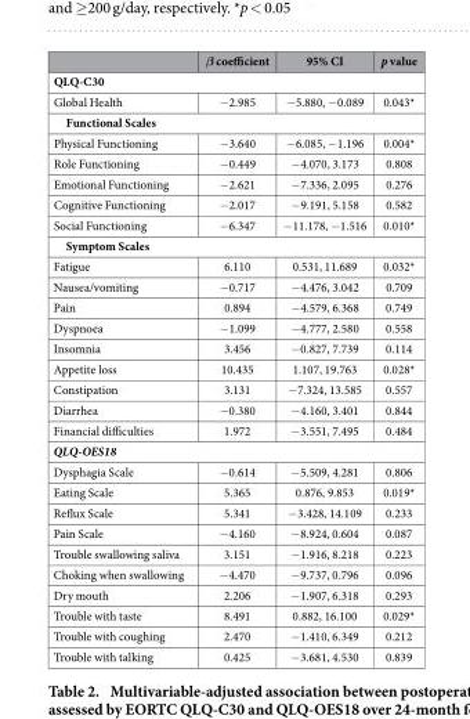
<table><thead><tr><td></td><td>β coefficient</td><td>95% CI</td><td>p value</td></tr></thead><tbody><tr><td colspan="4">QLQ-C30</td></tr><tr><td>Global Health</td><td>−2.985</td><td>−5.880, −0.089</td><td>0.043*</td></tr><tr><td colspan="4">Functional Scales</td></tr><tr><td>Physical Functioning</td><td>−3.640</td><td>−6.085, −1.196</td><td>0.004*</td></tr><tr><td>Role Functioning</td><td>−0.449</td><td>−4.070, 3.173</td><td>0.808</td></tr><tr><td>Emotional Functioning</td><td>−2.621</td><td>−7.336, 2.095</td><td>0.276</td></tr><tr><td>Cognitive Functioning</td><td>−2.017</td><td>−9.191, 5.158</td><td>0.582</td></tr><tr><td>Social Functioning</td><td>−6.347</td><td>−11.178, −1.516</td><td>0.010*</td></tr><tr><td colspan="4">Symptom Scales</td></tr><tr><td>Fatigue</td><td>6.110</td><td>0.531, 11.689</td><td>0.032*</td></tr><tr><td>Nausea/vomiting</td><td>−0.717</td><td>−4.476, 3.042</td><td>0.709</td></tr><tr><td>Pain</td><td>0.894</td><td>−4.579, 6.368</td><td>0.749</td></tr><tr><td>Dyspnoea</td><td>−1.099</td><td>−4.777, 2.580</td><td>0.558</td></tr><tr><td>Insomnia</td><td>3.456</td><td>−0.827, 7.739</td><td>0.114</td></tr><tr><td>Appetite loss</td><td>10.435</td><td>1.107, 19.763</td><td>0.028*</td></tr><tr><td>Constipation</td><td>3.131</td><td>−7.324, 13.585</td><td>0.557</td></tr><tr><td>Diarrhea</td><td>−0.380</td><td>−4.160, 3.401</td><td>0.844</td></tr><tr><td>Financial difficulties</td><td>1.972</td><td>−3.551, 7.495</td><td>0.484</td></tr><tr><td colspan="4">QLQ-OES18</td></tr><tr><td>Dysphagia Scale</td><td>−0.614</td><td>−5.509, 4.281</td><td>0.806</td></tr><tr><td>Eating Scale</td><td>5.365</td><td>0.876, 9.853</td><td>0.019*</td></tr><tr><td>Reflux Scale</td><td>5.341</td><td>−3.428, 14.109</td><td>0.233</td></tr><tr><td>Pain Scale</td><td>−4.160</td><td>−8.924, 0.604</td><td>0.087</td></tr><tr><td>Trouble swallowing saliva</td><td>3.151</td><td>−1.916, 8.218</td><td>0.223</td></tr><tr><td>Choking when swallowing</td><td>−4.470</td><td>−9.737, 0.796</td><td>0.096</td></tr><tr><td>Dry mouth</td><td>2.206</td><td>−1.907, 6.318</td><td>0.293</td></tr><tr><td>Trouble with taste</td><td>8.491</td><td>0.882, 16.100</td><td>0.029*</td></tr><tr><td>Trouble with coughing</td><td>2.470</td><td>−1.410, 6.349</td><td>0.212</td></tr><tr><td>Trouble with talking</td><td>0.425</td><td>−3.681, 4.530</td><td>0.839</td></tr></tbody></table>